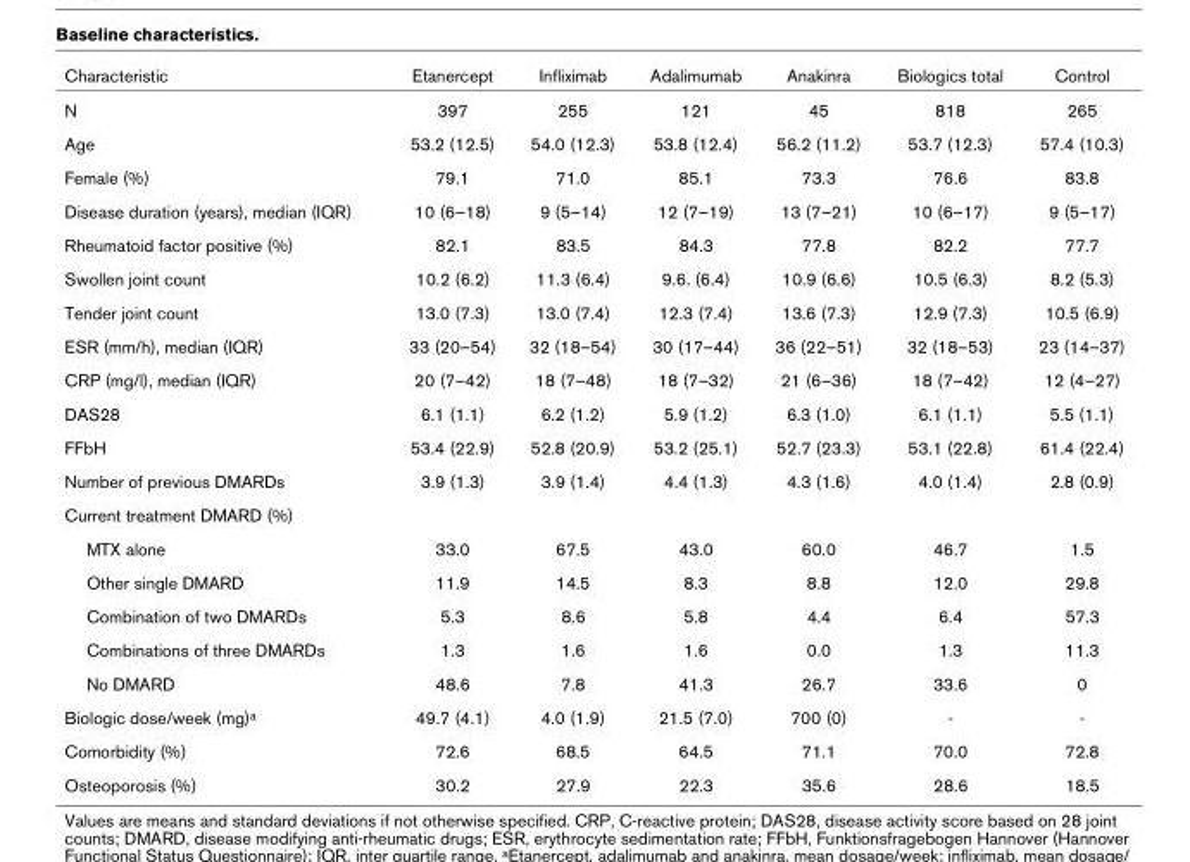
<table><thead><tr><td>Characteristic</td><td>Etanercept</td><td>Infliximab</td><td>Adalimumab</td><td>Anakinra</td><td>Biologics total</td><td>Control</td></tr></thead><tbody><tr><td>N</td><td>397</td><td>255</td><td>121</td><td>45</td><td>818</td><td>265</td></tr><tr><td>Age</td><td>53.2 (12.5)</td><td>54.0 (12.3)</td><td>53.8 (12.4)</td><td>56.2 (11.2)</td><td>53.7 (12.3)</td><td>57.4 (10.3)</td></tr><tr><td>Female (%)</td><td>79.1</td><td>71.0</td><td>85.1</td><td>73.3</td><td>76.6</td><td>83.8</td></tr><tr><td>Disease duration (years), median (IQR)</td><td>10 (6–18)</td><td>9 (5–14)</td><td>12 (7–19)</td><td>13 (7–21)</td><td>10 (6–17)</td><td>9 (5–17)</td></tr><tr><td>Rheumatoid factor positive (%)</td><td>82.1</td><td>83.5</td><td>84.3</td><td>77.8</td><td>82.2</td><td>77.7</td></tr><tr><td>Swollen joint count</td><td>10.2 (6.2)</td><td>11.3 (6.4)</td><td>9.6. (6.4)</td><td>10.9 (6.6)</td><td>10.5 (6.3)</td><td>8.2 (5.3)</td></tr><tr><td>Tender joint count</td><td>13.0 (7.3)</td><td>13.0 (7.4)</td><td>12.3 (7.4)</td><td>13.6 (7.3)</td><td>12.9 (7.3)</td><td>10.5 (6.9)</td></tr><tr><td>ESR (mm/h), median (IQR)</td><td>33 (20–54)</td><td>32 (18–54)</td><td>30 (17–44)</td><td>36 (22–51)</td><td>32 (18–53)</td><td>23 (14–37)</td></tr><tr><td>CRP (mg/l), median (IQR)</td><td>20 (7–42)</td><td>18 (7–48)</td><td>18 (7–32)</td><td>21 (6–36)</td><td>18 (7–42)</td><td>12 (4–27)</td></tr><tr><td>DAS28</td><td>6.1 (1.1)</td><td>6.2 (1.2)</td><td>5.9 (1.2)</td><td>6.3 (1.0)</td><td>6.1 (1.1)</td><td>5.5 (1.1)</td></tr><tr><td>FFbH</td><td>53.4 (22.9)</td><td>52.8 (20.9)</td><td>53.2 (25.1)</td><td>52.7 (23.3)</td><td>53.1 (22.8)</td><td>61.4 (22.4)</td></tr><tr><td>Number of previous DMARDs</td><td>3.9 (1.3)</td><td>3.9 (1.4)</td><td>4.4 (1.3)</td><td>4.3 (1.6)</td><td>4.0 (1.4)</td><td>2.8 (0.9)</td></tr><tr><td colspan="7">Current treatment DMARD (%)</td></tr><tr><td>MTX alone</td><td>33.0</td><td>67.5</td><td>43.0</td><td>60.0</td><td>46.7</td><td>1.5</td></tr><tr><td>Other single DMARD</td><td>11.9</td><td>14.5</td><td>8.3</td><td>8.8</td><td>12.0</td><td>29.8</td></tr><tr><td>Combination of two DMARDs</td><td>5.3</td><td>8.6</td><td>5.8</td><td>4.4</td><td>6.4</td><td>57.3</td></tr><tr><td>Combinations of three DMARDs</td><td>1.3</td><td>1.6</td><td>1.6</td><td>0.0</td><td>1.3</td><td>11.3</td></tr><tr><td>No DMARD</td><td>48.6</td><td>7.8</td><td>41.3</td><td>26.7</td><td>33.6</td><td>0</td></tr><tr><td>Biologic dose/week (mg)a</td><td>49.7 (4.1)</td><td>4.0 (1.9)</td><td>21.5 (7.0)</td><td>700 (0)</td><td>-</td><td>-</td></tr><tr><td>Comorbidity (%)</td><td>72.6</td><td>68.5</td><td>64.5</td><td>71.1</td><td>70.0</td><td>72.8</td></tr><tr><td>Osteoporosis (%)</td><td>30.2</td><td>27.9</td><td>22.3</td><td>35.6</td><td>28.6</td><td>18.5</td></tr></tbody></table>